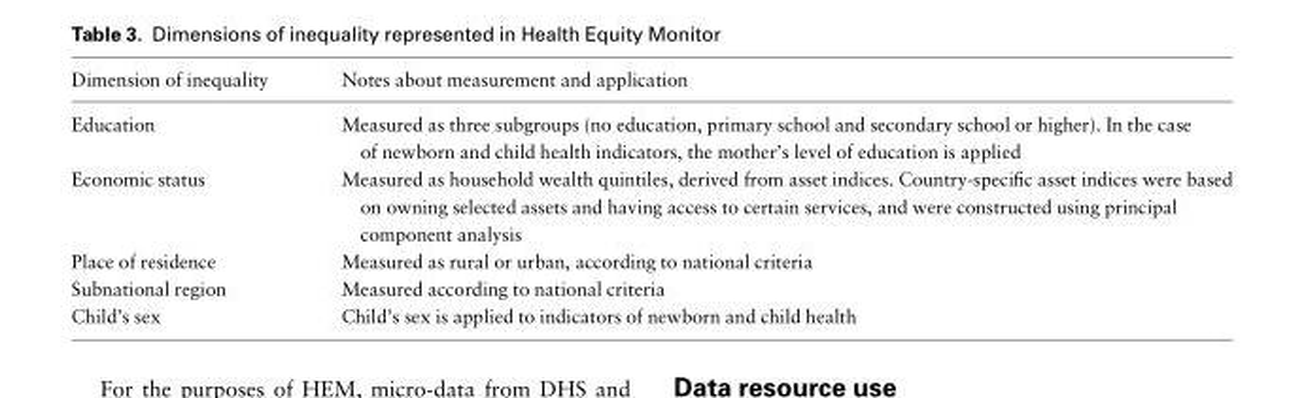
<table><thead><tr><td>Dimension of inequality</td><td>Notes about measurement and application</td></tr></thead><tbody><tr><td>Education</td><td>Measured as three subgroups (no education, primary school and secondary school or higher). In the case of newborn and child health indicators, the mother’s level of education is applied</td></tr><tr><td>Economic status</td><td>Measured as household wealth quintiles, derived from asset indices. Country-specific asset indices were based on owning selected assets and having access to certain services, and were constructed using principal component analysis</td></tr><tr><td>Place of residence</td><td>Measured as rural or urban, according to national criteria</td></tr><tr><td>Subnational region</td><td>Measured according to national criteria</td></tr><tr><td>Child’s sex</td><td>Child’s sex is applied to indicators of newborn and child health</td></tr></tbody></table>